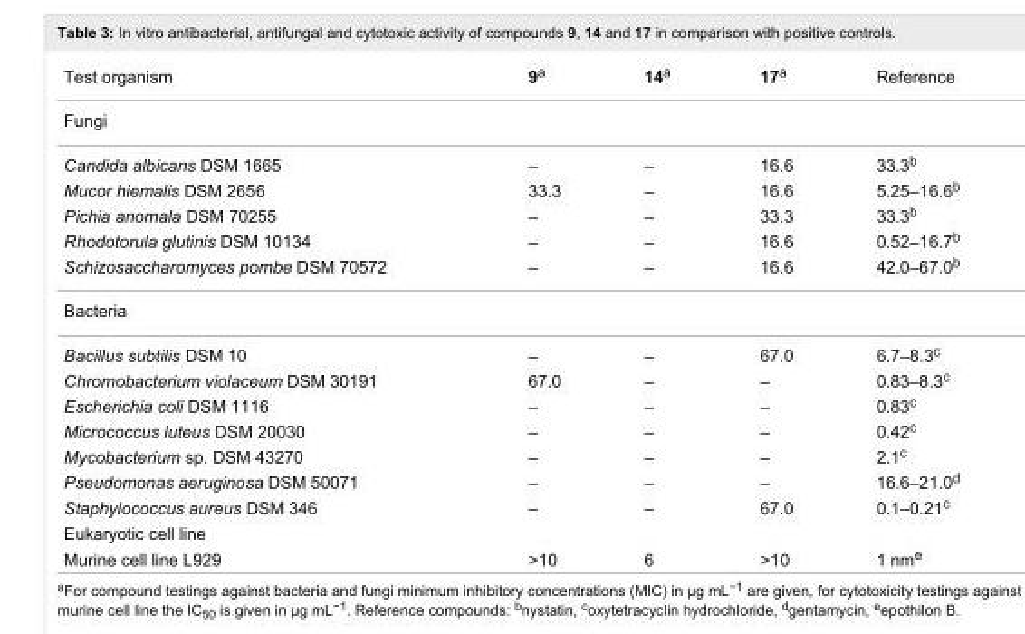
<table><tbody><tr><td>Test organism</td><td>9<sup>a</sup></td><td>14<sup>a</sup></td><td>17<sup>a</sup></td><td>Reference</td></tr><tr><td colspan="5">Fungi</td></tr><tr><td>Candida albicans DSM 1665</td><td>–</td><td>–</td><td>16.6</td><td>33.3<sup>b</sup></td></tr><tr><td>Mucor hiemalis DSM 2656</td><td>33.3</td><td>–</td><td>16.6</td><td>5.25–16.6<sup>b</sup></td></tr><tr><td>Pichia anomala DSM 70255</td><td>–</td><td>–</td><td>33.3</td><td>33.3<sup>b</sup></td></tr><tr><td>Rhodotorula glutinis DSM 10134</td><td>–</td><td>–</td><td>16.6</td><td>0.52–16.7<sup>b</sup></td></tr><tr><td>Schizosaccharomyces pombe DSM 70572</td><td>–</td><td>–</td><td>16.6</td><td>42.0–67.0<sup>b</sup></td></tr><tr><td colspan="5">Bacteria</td></tr><tr><td>Bacillus subtilis DSM 10</td><td>–</td><td>–</td><td>67.0</td><td>6.7–8.3<sup>c</sup></td></tr><tr><td>Chromobacterium violaceum DSM 30191</td><td>67.0</td><td>–</td><td>–</td><td>0.83–8.3<sup>c</sup></td></tr><tr><td>Escherichia coli DSM 1116</td><td>–</td><td>–</td><td>–</td><td>0.83<sup>c</sup></td></tr><tr><td>Micrococcus luteus DSM 20030</td><td>–</td><td>–</td><td>–</td><td>0.42<sup>c</sup></td></tr><tr><td>Mycobacterium sp. DSM 43270</td><td>–</td><td>–</td><td>–</td><td>2.1<sup>c</sup></td></tr><tr><td>Pseudomonas aeruginosa DSM 50071</td><td>–</td><td>–</td><td>–</td><td>16.6–21.0<sup>d</sup></td></tr><tr><td>Staphylococcus aureus DSM 346</td><td>–</td><td>–</td><td>67.0</td><td>0.1–0.21<sup>c</sup></td></tr><tr><td colspan="5">Eukaryotic cell line</td></tr><tr><td>Murine cell line L929</td><td>&gt;10</td><td>6</td><td>&gt;10</td><td>1 nm<sup>e</sup></td></tr></tbody></table>